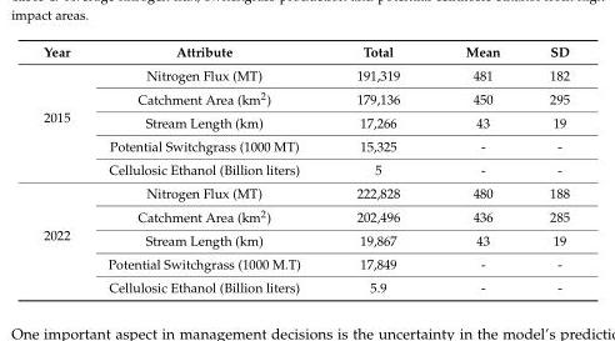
<table><thead><tr><td>Year</td><td>Attribute</td><td>Total</td><td>Mean</td><td>SD</td></tr></thead><tbody><tr><td rowspan="5">2015</td><td>Nitrogen Flux (MT)</td><td>191,319</td><td>481</td><td>182</td></tr><tr><td>Catchment Area (km<sup>2</sup>)</td><td>179,136</td><td>450</td><td>295</td></tr><tr><td>Stream Length (km)</td><td>17,266</td><td>43</td><td>19</td></tr><tr><td>Potential Switchgrass (1000 MT)</td><td>15,325</td><td>-</td><td>-</td></tr><tr><td>Cellulosic Ethanol (Billion liters)</td><td>5</td><td>-</td><td>-</td></tr><tr><td rowspan="5">2022</td><td>Nitrogen Flux (MT)</td><td>222,828</td><td>480</td><td>188</td></tr><tr><td>Catchment Area (km<sup>2</sup>)</td><td>202,496</td><td>436</td><td>285</td></tr><tr><td>Stream Length (km)</td><td>19,867</td><td>43</td><td>19</td></tr><tr><td>Potential Switchgrass (1000 M.T)</td><td>17,849</td><td>-</td><td>-</td></tr><tr><td>Cellulosic Ethanol (Billion liters)</td><td>5.9</td><td>-</td><td>-</td></tr></tbody></table>